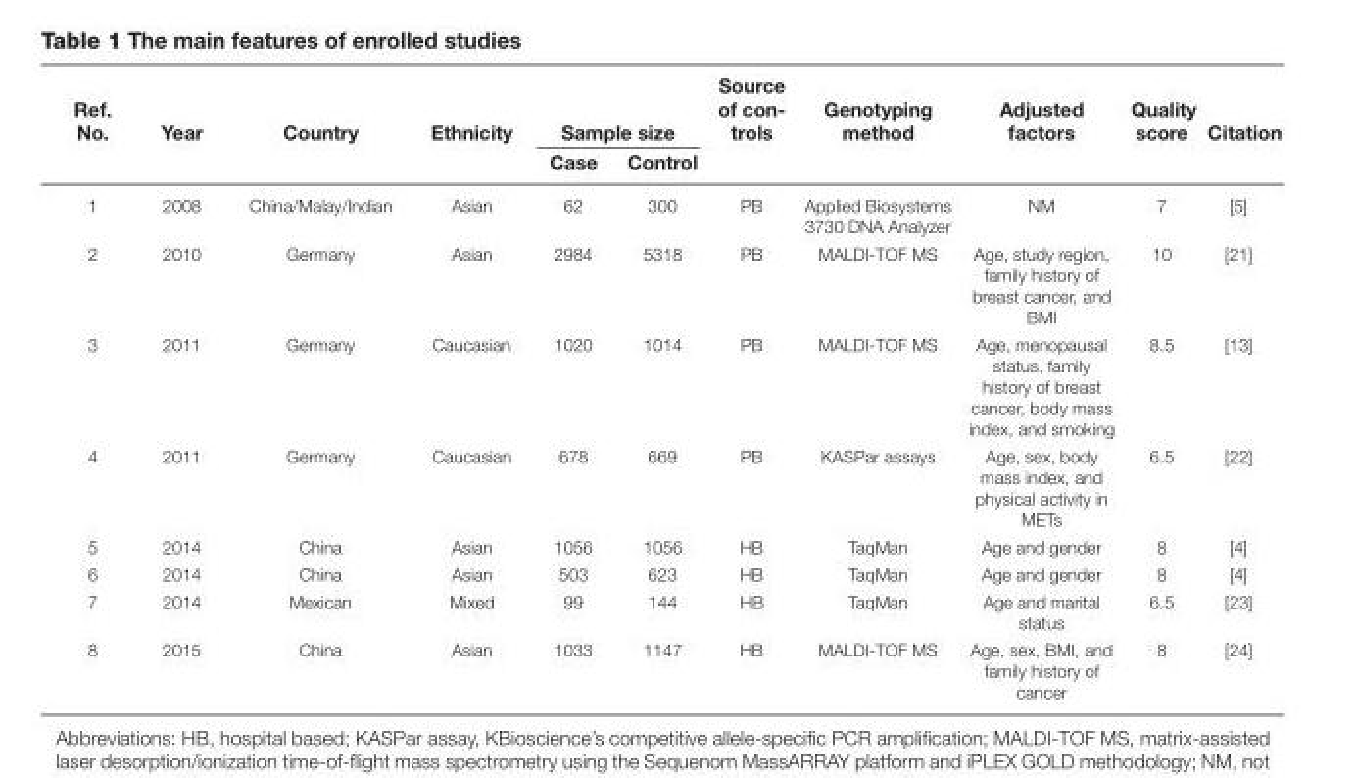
<table><thead><tr><td rowspan="2">Ref. No.</td><td rowspan="2">Year</td><td rowspan="2">Country</td><td rowspan="2">Ethnicity</td><td colspan="2">Sample size</td><td rowspan="2">Source of con- trols</td><td rowspan="2">Genotyping method</td><td rowspan="2">Adjusted factors</td><td rowspan="2">Quality score</td><td rowspan="2">Citation</td></tr><tr><td>Case</td><td>Control</td></tr></thead><tbody><tr><td>1</td><td>2008</td><td>China/Malay/Indian</td><td>Asian</td><td>62</td><td>300</td><td>PB</td><td>Applied Biosystems 3730 DNA Analyzer</td><td>NM</td><td>7</td><td>[5]</td></tr><tr><td>2</td><td>2010</td><td>Germany</td><td>Asian</td><td>2984</td><td>5318</td><td>PB</td><td>MALDI-TOF MS</td><td>Age, study region, family history of breast cancer, and BMI</td><td>10</td><td>[21]</td></tr><tr><td>3</td><td>2011</td><td>Germany</td><td>Caucasian</td><td>1020</td><td>1014</td><td>PB</td><td>MALDI-TOF MS</td><td>Age, menopausal status, family history of breast cancer, body mass index, and smoking</td><td>8.5</td><td>[13]</td></tr><tr><td>4</td><td>2011</td><td>Germany</td><td>Caucasian</td><td>678</td><td>669</td><td>PB</td><td>KASPar assays</td><td>Age, sex, body mass index, and physical activity in METs</td><td>6.5</td><td>[22]</td></tr><tr><td>5</td><td>2014</td><td>China</td><td>Asian</td><td>1056</td><td>1056</td><td>HB</td><td>TaqMan</td><td>Age and gender</td><td>8</td><td>[4]</td></tr><tr><td>6</td><td>2014</td><td>China</td><td>Asian</td><td>503</td><td>623</td><td>HB</td><td>TaqMan</td><td>Age and gender</td><td>8</td><td>[4]</td></tr><tr><td>7</td><td>2014</td><td>Mexican</td><td>Mixed</td><td>99</td><td>144</td><td>HB</td><td>TaqMan</td><td>Age and marital status</td><td>6.5</td><td>[23]</td></tr><tr><td>8</td><td>2015</td><td>China</td><td>Asian</td><td>1033</td><td>1147</td><td>HB</td><td>MALDI-TOF MS</td><td>Age, sex, BMI, and family history of cancer</td><td>8</td><td>[24]</td></tr></tbody></table>